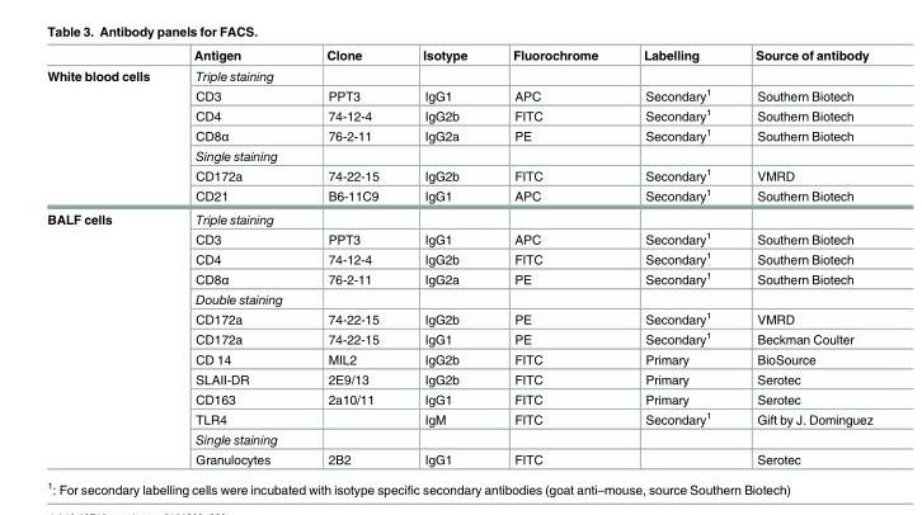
<table><thead><tr><td></td><td>Antigen</td><td>Clone</td><td>Isotype</td><td>Fluorochrome</td><td>Labelling</td><td>Source of antibody</td></tr></thead><tbody><tr><td rowspan="7">White blood cells</td><td>Triple staining</td><td></td><td></td><td></td><td></td><td></td></tr><tr><td>CD3</td><td>PPT3</td><td>IgG1</td><td>APC</td><td>Secondary<sup>1</sup></td><td>Southern Biotech</td></tr><tr><td>CD4</td><td>74-12-4</td><td>IgG2b</td><td>FITC</td><td>Secondary<sup>1</sup></td><td>Southern Biotech</td></tr><tr><td>CD8α</td><td>76-2-11</td><td>IgG2a</td><td>PE</td><td>Secondary<sup>1</sup></td><td>Southern Biotech</td></tr><tr><td>Single staining</td><td></td><td></td><td></td><td></td><td></td></tr><tr><td>CD172a</td><td>74-22-15</td><td>IgG2b</td><td>FITC</td><td>Secondary<sup>1</sup></td><td>VMRD</td></tr><tr><td>CD21</td><td>B6-11C9</td><td>IgG1</td><td>APC</td><td>Secondary<sup>1</sup></td><td>Southern Biotech</td></tr><tr><td rowspan="13">BALF cells</td><td>Triple staining</td><td></td><td></td><td></td><td></td><td></td></tr><tr><td>CD3</td><td>PPT3</td><td>IgG1</td><td>APC</td><td>Secondary<sup>1</sup></td><td>Southern Biotech</td></tr><tr><td>CD4</td><td>74-12-4</td><td>IgG2b</td><td>FITC</td><td>Secondary<sup>1</sup></td><td>Southern Biotech</td></tr><tr><td>CD8α</td><td>76-2-11</td><td>IgG2a</td><td>PE</td><td>Secondary<sup>1</sup></td><td>Southern Biotech</td></tr><tr><td>Double staining</td><td></td><td></td><td></td><td></td><td></td></tr><tr><td>CD172a</td><td>74-22-15</td><td>IgG2b</td><td>PE</td><td>Secondary<sup>1</sup></td><td>VMRD</td></tr><tr><td>CD172a</td><td>74-22-15</td><td>IgG1</td><td>PE</td><td>Secondary<sup>1</sup></td><td>Beckman Coulter</td></tr><tr><td>CD 14</td><td>MIL2</td><td>IgG2b</td><td>FITC</td><td>Primary</td><td>BioSource</td></tr><tr><td>SLAII-DR</td><td>2E9/13</td><td>IgG2b</td><td>FITC</td><td>Primary</td><td>Serotec</td></tr><tr><td>CD163</td><td>2a10/11</td><td>IgG1</td><td>FITC</td><td>Primary</td><td>Serotec</td></tr><tr><td>TLR4</td><td></td><td>IgM</td><td>FITC</td><td>Secondary<sup>1</sup></td><td>Gift by J. Dominguez</td></tr><tr><td>Single staining</td><td></td><td></td><td></td><td></td><td></td></tr><tr><td>Granulocytes</td><td>2B2</td><td>IgG1</td><td>FITC</td><td></td><td>Serotec</td></tr></tbody></table>